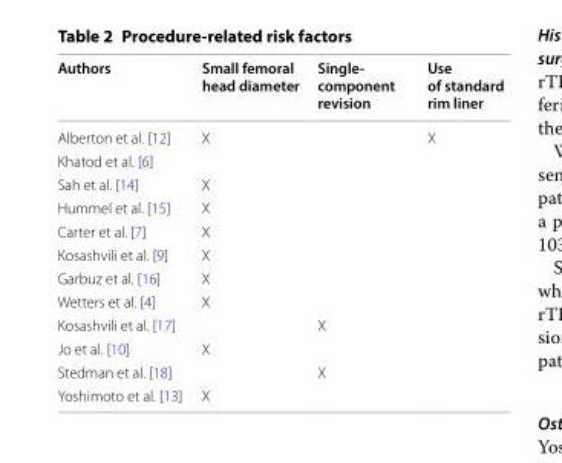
<table><thead><tr><td>Authors</td><td>Small femoral head diameter</td><td>Single‑ component revision</td><td>Use of standard rim liner</td></tr></thead><tbody><tr><td>Alberton et al. [12]</td><td>X</td><td></td><td>X</td></tr><tr><td colspan="4">Khatod et al. [6]</td></tr><tr><td>Sah et al. [14]</td><td>X</td><td></td><td></td></tr><tr><td>Hummel et al. [15]</td><td>X</td><td></td><td></td></tr><tr><td>Carter et al. [7]</td><td>X</td><td></td><td></td></tr><tr><td>Kosashvili et al. [9]</td><td>X</td><td></td><td></td></tr><tr><td>Garbuz et al. [16]</td><td>X</td><td></td><td></td></tr><tr><td>Wetters et al. [4]</td><td>X</td><td></td><td></td></tr><tr><td>Kosashvili et al. [17]</td><td></td><td>X</td><td></td></tr><tr><td>Jo et al. [10]</td><td>X</td><td></td><td></td></tr><tr><td>Stedman et al. [18]</td><td></td><td>X</td><td></td></tr><tr><td>Yoshimoto et al. [13]</td><td>X</td><td></td><td></td></tr></tbody></table>